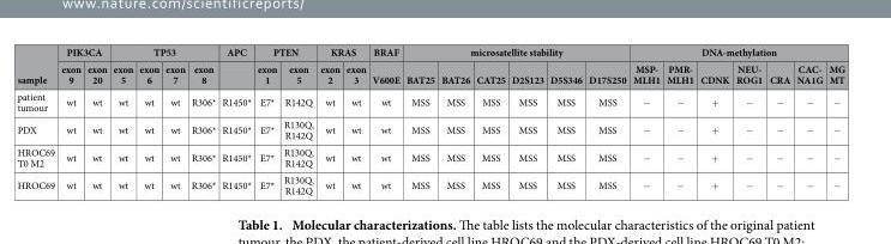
<table><thead><tr><td rowspan="2">sample</td><td colspan="2">PIK3CA</td><td colspan="4">TP53</td><td rowspan="2">APC</td><td colspan="2">PTEN</td><td colspan="2">KRAS</td><td rowspan="2">BRAF V600E</td><td colspan="6">microsatellite stability</td><td colspan="7">DNA-methylation</td></tr><tr><td>exon 9</td><td>exon 20</td><td>exon 5</td><td>exon 6</td><td>exon 7</td><td>exon 8</td><td>exon 1</td><td>exon 5</td><td>exon 2</td><td>exon 3</td><td>BAT25</td><td>BAT26</td><td>CAT25</td><td>D2S123</td><td>D5S346</td><td>D17S250</td><td>MSP- MLH1</td><td>PMR- MLH1</td><td>CDNK</td><td>NEU- ROG1</td><td>CRA</td><td>CAC- NA1G</td><td>MG MT</td></tr></thead><tbody><tr><td>patient tumour</td><td>wt</td><td>wt</td><td>wt</td><td>wt</td><td>wt</td><td>R306*</td><td>R1450*</td><td>E7*</td><td>R142Q</td><td>wt</td><td>wt</td><td>wt</td><td>MSS</td><td>MSS</td><td>MSS</td><td>MSS</td><td>MSS</td><td>MSS</td><td>−</td><td>−</td><td>+</td><td>−</td><td>−</td><td>−</td><td>−</td></tr><tr><td>PDX</td><td>wt</td><td>wt</td><td>wt</td><td>wt</td><td>wt</td><td>R306*</td><td>R1450*</td><td>E7*</td><td>R130Q, R142Q</td><td>wt</td><td>wt</td><td>wt</td><td>MSS</td><td>MSS</td><td>MSS</td><td>MSS</td><td>MSS</td><td>MSS</td><td>−</td><td>−</td><td>+</td><td>−</td><td>−</td><td>−</td><td>−</td></tr><tr><td>HROC69 T0 M2</td><td>wt</td><td>wt</td><td>wt</td><td>wt</td><td>wt</td><td>R306*</td><td>R1450*</td><td>E7*</td><td>R130Q, R142Q</td><td>wt</td><td>wt</td><td>wt</td><td>MSS</td><td>MSS</td><td>MSS</td><td>MSS</td><td>MSS</td><td>MSS</td><td>−</td><td>−</td><td>+</td><td>−</td><td>−</td><td>−</td><td>−</td></tr><tr><td>HROC69</td><td>wt</td><td>wt</td><td>wt</td><td>wt</td><td>wt</td><td>R306*</td><td>R1450*</td><td>E7*</td><td>R130Q, R142Q</td><td>wt</td><td>wt</td><td>wt</td><td>MSS</td><td>MSS</td><td>MSS</td><td>MSS</td><td>MSS</td><td>MSS</td><td>−</td><td>−</td><td>+</td><td>−</td><td>−</td><td>−</td><td>−</td></tr></tbody></table>